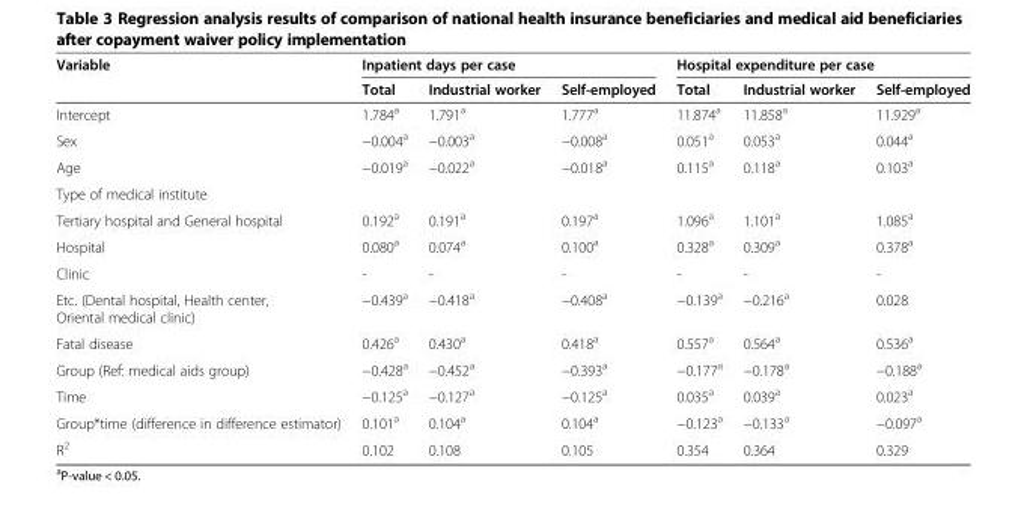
<table><thead><tr><td rowspan="2">Variable</td><td colspan="3">Inpatient days per case</td><td colspan="3">Hospital expenditure per case</td></tr><tr><td>Total</td><td>Industrial worker</td><td>Self-employed</td><td>Total</td><td>Industrial worker</td><td>Self-employed</td></tr></thead><tbody><tr><td>Intercept</td><td>1.784<sup>a</sup></td><td>1.791<sup>a</sup></td><td>1.777<sup>a</sup></td><td>11.874<sup>a</sup></td><td>11.858<sup>a</sup></td><td>11.929<sup>a</sup></td></tr><tr><td>Sex</td><td>−0.004<sup>a</sup></td><td>−0.003<sup>a</sup></td><td>−0.008<sup>a</sup></td><td>0.051<sup>a</sup></td><td>0.053<sup>a</sup></td><td>0.044<sup>a</sup></td></tr><tr><td>Age</td><td>−0.019<sup>a</sup></td><td>−0.022<sup>a</sup></td><td>−0.018<sup>a</sup></td><td>0.115<sup>a</sup></td><td>0.118<sup>a</sup></td><td>0.103<sup>a</sup></td></tr><tr><td colspan="7">Type of medical institute</td></tr><tr><td>Tertiary hospital and General hospital</td><td>0.192<sup>a</sup></td><td>0.191<sup>a</sup></td><td>0.197<sup>a</sup></td><td>1.096<sup>a</sup></td><td>1.101<sup>a</sup></td><td>1.085<sup>a</sup></td></tr><tr><td>Hospital</td><td>0.080<sup>a</sup></td><td>0.074<sup>a</sup></td><td>0.100<sup>a</sup></td><td>0.328<sup>a</sup></td><td>0.309<sup>a</sup></td><td>0.378<sup>a</sup></td></tr><tr><td>Clinic</td><td>-</td><td>-</td><td>-</td><td>-</td><td>-</td><td>-</td></tr><tr><td>Etc. (Dental hospital, Health center, Oriental medical clinic)</td><td>−0.439<sup>a</sup></td><td>−0.418<sup>a</sup></td><td>−0.408<sup>a</sup></td><td>−0.139<sup>a</sup></td><td>−0.216<sup>a</sup></td><td>0.028</td></tr><tr><td>Fatal disease</td><td>0.426<sup>a</sup></td><td>0.430<sup>a</sup></td><td>0.418<sup>a</sup></td><td>0.557<sup>a</sup></td><td>0.564<sup>a</sup></td><td>0.536<sup>a</sup></td></tr><tr><td>Group (Ref: medical aids group)</td><td>−0.428<sup>a</sup></td><td>−0.452<sup>a</sup></td><td>−0.393<sup>a</sup></td><td>−0.177<sup>a</sup></td><td>−0.178<sup>a</sup></td><td>−0.188<sup>a</sup></td></tr><tr><td>Time</td><td>−0.125<sup>a</sup></td><td>−0.127<sup>a</sup></td><td>−0.125<sup>a</sup></td><td>0.035<sup>a</sup></td><td>0.039<sup>a</sup></td><td>0.023<sup>a</sup></td></tr><tr><td>Group*time (difference in difference estimator)</td><td>0.101<sup>a</sup></td><td>0.104<sup>a</sup></td><td>0.104<sup>a</sup></td><td>−0.123<sup>a</sup></td><td>−0.133<sup>a</sup></td><td>−0.097<sup>a</sup></td></tr><tr><td>R<sup>2</sup></td><td>0.102</td><td>0.108</td><td>0.105</td><td>0.354</td><td>0.364</td><td>0.329</td></tr></tbody></table>